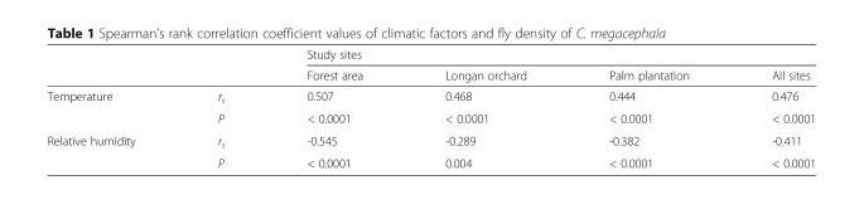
<table><thead><tr><td rowspan="2"></td><td rowspan="2"></td><td colspan="4">Study sites</td></tr><tr><td>Forest area</td><td>Longan orchard</td><td>Palm plantation</td><td>All sites</td></tr></thead><tbody><tr><td rowspan="2">Temperature</td><td>r<sub>s</sub></td><td>0.507</td><td>0.468</td><td>0.444</td><td>0.476</td></tr><tr><td>P</td><td>&lt; 0.0001</td><td>&lt; 0.0001</td><td>&lt; 0.0001</td><td>&lt; 0.0001</td></tr><tr><td rowspan="2">Relative humidity</td><td>r<sub>s</sub></td><td>-0.545</td><td>-0.289</td><td>-0.382</td><td>-0.411</td></tr><tr><td>P</td><td>&lt; 0.0001</td><td>0.004</td><td>&lt; 0.0001</td><td>&lt; 0.0001</td></tr></tbody></table>